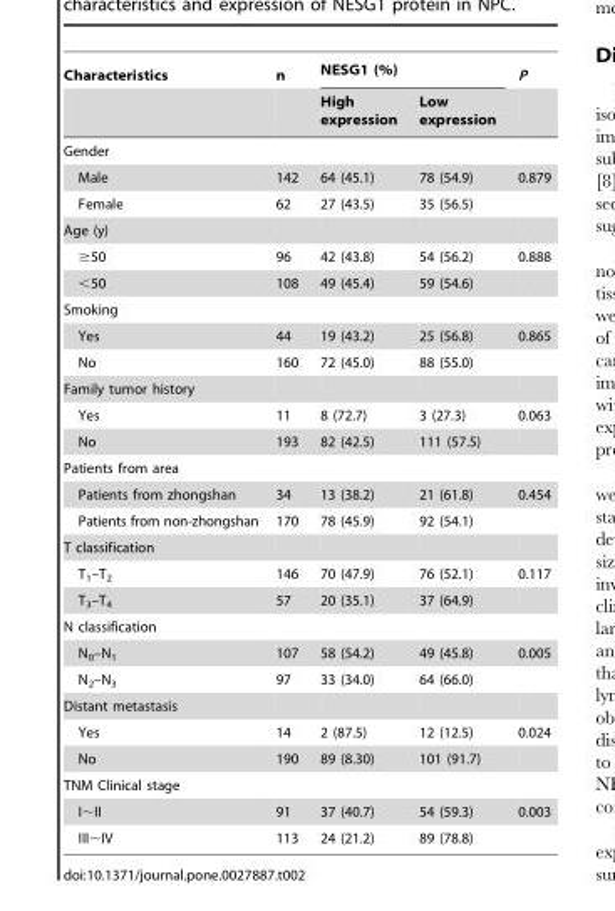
<table><thead><tr><td rowspan="2">Characteristics</td><td rowspan="2">n</td><td colspan="2">NESG1 (%)</td><td rowspan="2">P</td></tr><tr><td>High expression</td><td>Low expression</td></tr></thead><tbody><tr><td colspan="5">Gender</td></tr><tr><td>Male</td><td>142</td><td>64 (45.1)</td><td>78 (54.9)</td><td>0.879</td></tr><tr><td>Female</td><td>62</td><td>27 (43.5)</td><td>35 (56.5)</td><td></td></tr><tr><td colspan="5">Age (y)</td></tr><tr><td>≥50</td><td>96</td><td>42 (43.8)</td><td>54 (56.2)</td><td>0.888</td></tr><tr><td>&lt;50</td><td>108</td><td>49 (45.4)</td><td>59 (54.6)</td><td></td></tr><tr><td colspan="5">Smoking</td></tr><tr><td>Yes</td><td>44</td><td>19 (43.2)</td><td>25 (56.8)</td><td>0.865</td></tr><tr><td>No</td><td>160</td><td>72 (45.0)</td><td>88 (55.0)</td><td></td></tr><tr><td colspan="5">Family tumor history</td></tr><tr><td>Yes</td><td>11</td><td>8 (72.7)</td><td>3 (27.3)</td><td>0.063</td></tr><tr><td>No</td><td>193</td><td>82 (42.5)</td><td>111 (57.5)</td><td></td></tr><tr><td colspan="5">Patients from area</td></tr><tr><td>Patients from zhongshan</td><td>34</td><td>13 (38.2)</td><td>21 (61.8)</td><td>0.454</td></tr><tr><td>Patients from non-zhongshan</td><td>170</td><td>78 (45.9)</td><td>92 (54.1)</td><td></td></tr><tr><td colspan="5">T classification</td></tr><tr><td>T<sub>1</sub>–T<sub>2</sub></td><td>146</td><td>70 (47.9)</td><td>76 (52.1)</td><td>0.117</td></tr><tr><td>T<sub>3</sub>–T<sub>4</sub></td><td>57</td><td>20 (35.1)</td><td>37 (64.9)</td><td></td></tr><tr><td colspan="5">N classification</td></tr><tr><td>N<sub>0</sub>–N<sub>1</sub></td><td>107</td><td>58 (54.2)</td><td>49 (45.8)</td><td>0.005</td></tr><tr><td>N<sub>2</sub>–N<sub>3</sub></td><td>97</td><td>33 (34.0)</td><td>64 (66.0)</td><td></td></tr><tr><td colspan="5">Distant metastasis</td></tr><tr><td>Yes</td><td>14</td><td>2 (87.5)</td><td>12 (12.5)</td><td>0.024</td></tr><tr><td>No</td><td>190</td><td>89 (8.30)</td><td>101 (91.7)</td><td></td></tr><tr><td colspan="5">TNM Clinical stage</td></tr><tr><td>I∼II</td><td>91</td><td>37 (40.7)</td><td>54 (59.3)</td><td>0.003</td></tr><tr><td>III∼IV</td><td>113</td><td>24 (21.2)</td><td>89 (78.8)</td><td></td></tr></tbody></table>